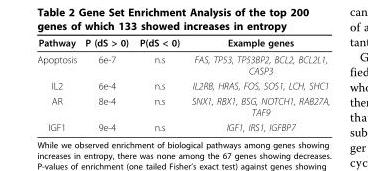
<table><thead><tr><td>Pathway</td><td>P (dS &gt; 0)</td><td>P(dS &lt; 0)</td><td>Example genes</td></tr></thead><tbody><tr><td>Apoptosis</td><td>6e-7</td><td>n.s</td><td>FAS, TP53, TP53BP2, BCL2, BCL2L1, CASP3</td></tr><tr><td>IL2</td><td>6e-4</td><td>n.s</td><td>IL2RB, HRAS, FOS, SOS1, LCH, SHC1</td></tr><tr><td>AR</td><td>8e-4</td><td>n.s</td><td>SNX1, RBX1, BSG, NOTCH1, RAB27A, TAF9</td></tr><tr><td>IGF1</td><td>9e-4</td><td>n.s</td><td>IGF1, IRS1, IGFBP7</td></tr></tbody></table>